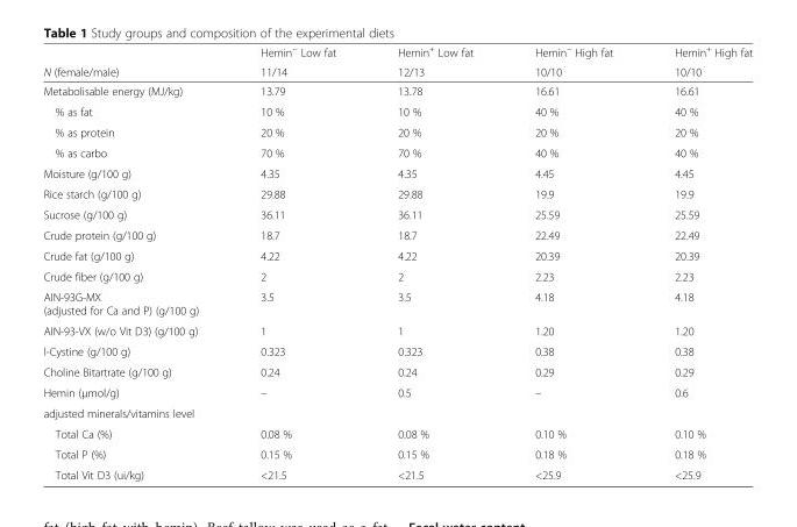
<table><thead><tr><td rowspan="2">N (female/male)</td><td rowspan="2">Hemin<sup>−</sup> Low fat 11/14</td><td rowspan="2">Hemin<sup>+</sup> Low fat 12/13</td><td rowspan="2">Hemin<sup>−</sup> High fat 10/10</td><td rowspan="2">Hemin<sup>+</sup> High fat 10/10</td></tr><tr></tr></thead><tbody><tr><td>Metabolisable energy (MJ/kg)</td><td>13.79</td><td>13.78</td><td>16.61</td><td>16.61</td></tr><tr><td>% as fat</td><td>10 %</td><td>10 %</td><td>40 %</td><td>40 %</td></tr><tr><td>% as protein</td><td>20 %</td><td>20 %</td><td>20 %</td><td>20 %</td></tr><tr><td>% as carbo</td><td>70 %</td><td>70 %</td><td>40 %</td><td>40 %</td></tr><tr><td>Moisture (g/100 g)</td><td>4.35</td><td>4.35</td><td>4.45</td><td>4.45</td></tr><tr><td>Rice starch (g/100 g)</td><td>29.88</td><td>29.88</td><td>19.9</td><td>19.9</td></tr><tr><td>Sucrose (g/100 g)</td><td>36.11</td><td>36.11</td><td>25.59</td><td>25.59</td></tr><tr><td>Crude protein (g/100 g)</td><td>18.7</td><td>18.7</td><td>22.49</td><td>22.49</td></tr><tr><td>Crude fat (g/100 g)</td><td>4.22</td><td>4.22</td><td>20.39</td><td>20.39</td></tr><tr><td>Crude fiber (g/100 g)</td><td>2</td><td>2</td><td>2.23</td><td>2.23</td></tr><tr><td>AIN-93G-MX (adjusted for Ca and P) (g/100 g)</td><td>3.5</td><td>3.5</td><td>4.18</td><td>4.18</td></tr><tr><td>AIN-93-VX (w/o Vit D3) (g/100 g)</td><td>1</td><td>1</td><td>1.20</td><td>1.20</td></tr><tr><td>l-Cystine (g/100 g)</td><td>0.323</td><td>0.323</td><td>0.38</td><td>0.38</td></tr><tr><td>Choline Bitartrate (g/100 g)</td><td>0.24</td><td>0.24</td><td>0.29</td><td>0.29</td></tr><tr><td>Hemin (μmol/g)</td><td>–</td><td>0.5</td><td>–</td><td>0.6</td></tr><tr><td colspan="5">adjusted minerals/vitamins level</td></tr><tr><td>Total Ca (%)</td><td>0.08 %</td><td>0.08 %</td><td>0.10 %</td><td>0.10 %</td></tr><tr><td>Total P (%)</td><td>0.15 %</td><td>0.15 %</td><td>0.18 %</td><td>0.18 %</td></tr><tr><td>Total Vit D3 (ui/kg)</td><td>&lt;21.5</td><td>&lt;21.5</td><td>&lt;25.9</td><td>&lt;25.9</td></tr></tbody></table>